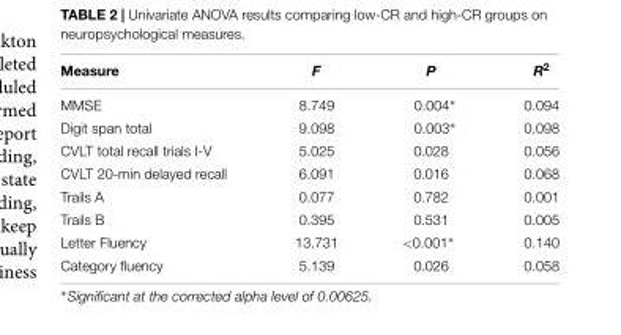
<table><thead><tr><td>Measure</td><td>F</td><td>P</td><td>R<sup>2</sup></td></tr></thead><tbody><tr><td>MMSE</td><td>8.749</td><td>0.004∗</td><td>0.094</td></tr><tr><td>Digit span total</td><td>9.098</td><td>0.003∗</td><td>0.098</td></tr><tr><td>CVLT total recall trials I-V</td><td>5.025</td><td>0.028</td><td>0.056</td></tr><tr><td>CVLT 20-min delayed recall</td><td>6.091</td><td>0.016</td><td>0.068</td></tr><tr><td>Trails A</td><td>0.077</td><td>0.782</td><td>0.001</td></tr><tr><td>Trails B</td><td>0.395</td><td>0.531</td><td>0.005</td></tr><tr><td>Letter Fluency</td><td>13.731</td><td>&lt;0.001∗</td><td>0.140</td></tr><tr><td>Category fluency</td><td>5.139</td><td>0.026</td><td>0.058</td></tr></tbody></table>